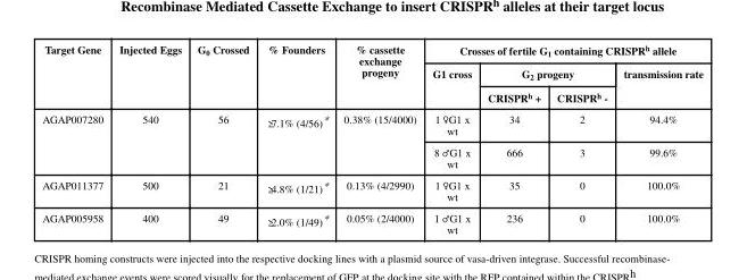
<table><thead><tr><td rowspan="3">Target Gene</td><td rowspan="3">Injected Eggs</td><td rowspan="3">G<sub>0</sub> Crossed</td><td rowspan="3">% Founders</td><td rowspan="3">% cassette exchange progeny</td><td colspan="4">Crosses of fertile G<sub>1</sub> containing CRISPR<sup>h</sup> allele</td></tr><tr><td rowspan="2">G1 cross</td><td colspan="2">G<sub>2</sub> progeny</td><td rowspan="2">transmission rate</td></tr><tr><td>CRISPR<sup>h</sup> +</td><td>CRISPR<sup>h</sup> -</td></tr></thead><tbody><tr><td rowspan="2">AGAP007280</td><td rowspan="2">540</td><td rowspan="2">56</td><td rowspan="2">≥7.1% (4/56)*</td><td rowspan="2">0.38% (15/4000)</td><td>1 ♀G1 x wt</td><td>34</td><td>2</td><td>94.4%</td></tr><tr><td>8 ♂G1 x wt</td><td>666</td><td>3</td><td>99.6%</td></tr><tr><td>AGAP011377</td><td>500</td><td>21</td><td>≥4.8% (1/21)*</td><td>0.13% (4/2990)</td><td>1 ♀G1 x wt</td><td>35</td><td>0</td><td>100.0%</td></tr><tr><td>AGAP005958</td><td>400</td><td>49</td><td>≥2.0% (1/49)*</td><td>0.05% (2/4000)</td><td>1 ♂G1 x wt</td><td>236</td><td>0</td><td>100.0%</td></tr></tbody></table>